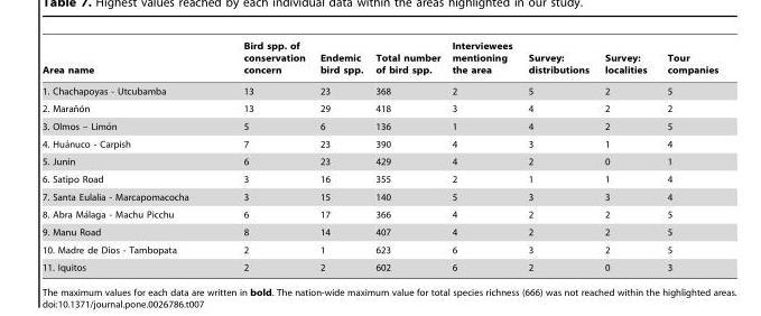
<table><thead><tr><td>Area name</td><td>Bird spp. of conservation concern</td><td>Endemic bird spp.</td><td>Total number of bird spp.</td><td>Interviewees mentioning the area</td><td>Survey: distributions</td><td>Survey: localities</td><td>Tour companies</td></tr></thead><tbody><tr><td>1. Chachapoyas - Utcubamba</td><td>13</td><td>23</td><td>368</td><td>2</td><td>5</td><td>2</td><td>5</td></tr><tr><td>2. Maran˜o´n</td><td>13</td><td>29</td><td>418</td><td>3</td><td>4</td><td>2</td><td>2</td></tr><tr><td>3. Olmos – Limo´n</td><td>5</td><td>6</td><td>136</td><td>1</td><td>4</td><td>2</td><td>5</td></tr><tr><td>4. Hua´nuco - Carpish</td><td>7</td><td>23</td><td>390</td><td>4</td><td>3</td><td>1</td><td>4</td></tr><tr><td>5. Junı´n</td><td>6</td><td>23</td><td>429</td><td>4</td><td>2</td><td>0</td><td>1</td></tr><tr><td>6. Satipo Road</td><td>3</td><td>16</td><td>355</td><td>2</td><td>1</td><td>1</td><td>4</td></tr><tr><td>7. Santa Eulalia - Marcapomacocha</td><td>3</td><td>15</td><td>140</td><td>5</td><td>3</td><td>3</td><td>4</td></tr><tr><td>8. Abra Ma´laga - Machu Picchu</td><td>6</td><td>17</td><td>366</td><td>4</td><td>2</td><td>2</td><td>5</td></tr><tr><td>9. Manu Road</td><td>8</td><td>14</td><td>407</td><td>4</td><td>2</td><td>2</td><td>5</td></tr><tr><td>10. Madre de Dios - Tambopata</td><td>2</td><td>1</td><td>623</td><td>6</td><td>3</td><td>2</td><td>5</td></tr><tr><td>11. Iquitos</td><td>2</td><td>2</td><td>602</td><td>6</td><td>2</td><td>0</td><td>3</td></tr></tbody></table>